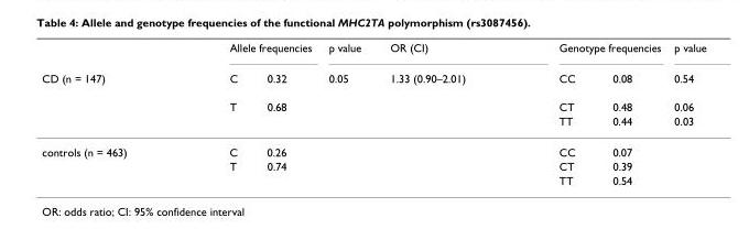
<table><thead><tr><td rowspan="4">CD (n = 147)</td><td colspan="2">Allele frequencies</td><td rowspan="4">p value 0.05</td><td rowspan="4">OR (CI) 1.33 (0.90–2.01)</td><td colspan="2">Genotype frequencies</td><td rowspan="4">p value 0.54 0.06 0.03</td></tr><tr><td rowspan="3">C T</td><td rowspan="3">0.32 0.68</td><td rowspan="3">CC CT TT</td><td rowspan="3">0.08 0.48 0.44</td></tr><tr></tr><tr></tr></thead><tbody><tr><td rowspan="3">controls (n = 463)</td><td>C</td><td>0.26</td><td></td><td></td><td>CC</td><td>0.07</td><td></td></tr><tr><td>T</td><td>0.74</td><td></td><td></td><td>CT</td><td>0.39</td><td></td></tr><tr><td></td><td></td><td></td><td></td><td>TT</td><td>0.54</td><td></td></tr></tbody></table>